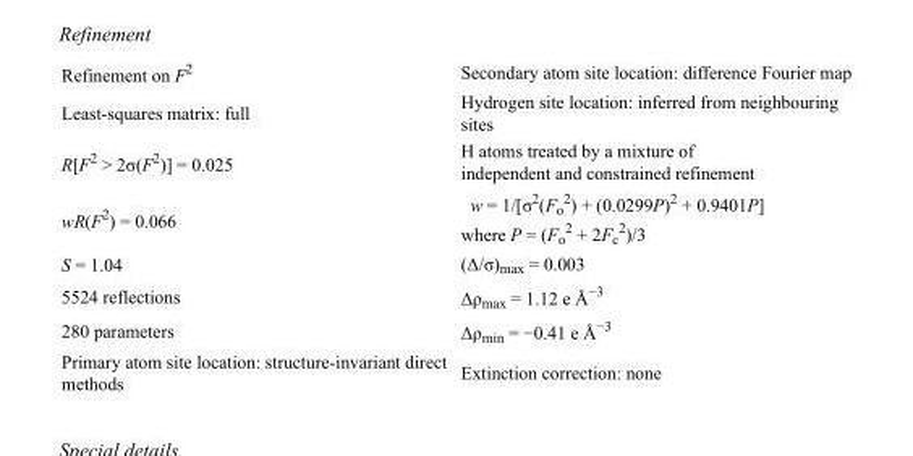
<table><tbody><tr><td>Refinement on F<sup>2</sup></td><td>Secondary atom site location: difference Fourier map</td></tr><tr><td>Least-squares matrix: full</td><td>Hydrogen site location: inferred from neighbouring sites</td></tr><tr><td>R[F<sup>2</sup> &gt; 2σ(F<sup>2</sup>)] = 0.025</td><td>H atoms treated by a mixture of independent and constrained refinement</td></tr><tr><td>wR(F<sup>2</sup>) = 0.066</td><td>w = 1/[σ<sup>2</sup>(F<sub>o</sub> <sup>2</sup>) + (0.0299P)<sup>2</sup> + 0.9401P] where P = (F<sub>o</sub> <sup>2</sup> + 2F<sub>c</sub> <sup>2</sup>)/3</td></tr><tr><td>S = 1.04</td><td>(Δ/σ)<sub>max</sub> = 0.003</td></tr><tr><td>5524 reflections</td><td>Δρ<sub>max</sub> = 1.12 e Å<sup>−3</sup></td></tr><tr><td>280 parameters</td><td>Δρ<sub>min</sub> = −0.41 e Å<sup>−3</sup></td></tr><tr><td>Primary atom site location: structure-invariant direct methods</td><td>Extinction correction: none</td></tr></tbody></table>